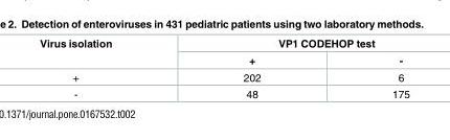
<table><thead><tr><td rowspan="2">Virus isolation</td><td colspan="2">VP1 CODEHOP test</td></tr><tr><td>+</td><td>-</td></tr></thead><tbody><tr><td>+</td><td>202</td><td>6</td></tr><tr><td>-</td><td>48</td><td>175</td></tr></tbody></table>